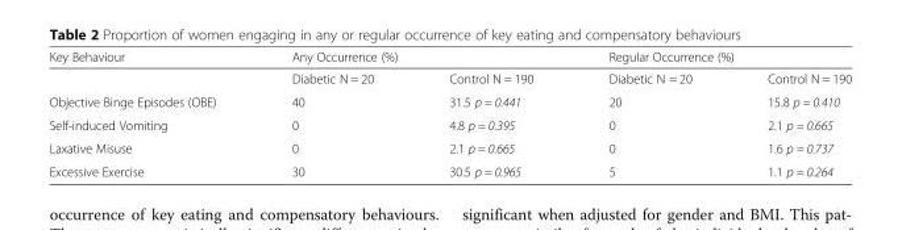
<table><thead><tr><td rowspan="2">Key Behaviour</td><td colspan="2">Any Occurrence (%)</td><td colspan="2">Regular Occurrence (%)</td></tr><tr><td>Diabetic N = 20</td><td>Control N = 190</td><td>Diabetic N = 20</td><td>Control N = 190</td></tr></thead><tbody><tr><td>Objective Binge Episodes (OBE)</td><td>40</td><td>31.5 p = 0.441</td><td>20</td><td>15.8 p = 0.410</td></tr><tr><td>Self-induced Vomiting</td><td>0</td><td>4.8 p = 0.395</td><td>0</td><td>2.1 p = 0.665</td></tr><tr><td>Laxative Misuse</td><td>0</td><td>2.1 p = 0.665</td><td>0</td><td>1.6 p = 0.737</td></tr><tr><td>Excessive Exercise</td><td>30</td><td>30.5 p = 0.965</td><td>5</td><td>1.1 p = 0.264</td></tr></tbody></table>